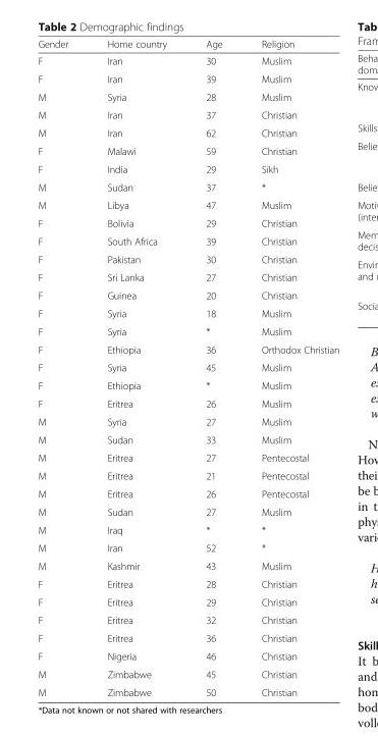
<table><thead><tr><td>Gender</td><td>Home country</td><td>Age</td><td>Religion</td></tr></thead><tbody><tr><td>F</td><td>Iran</td><td>30</td><td>Muslim</td></tr><tr><td>F</td><td>Iran</td><td>39</td><td>Muslim</td></tr><tr><td>M</td><td>Syria</td><td>28</td><td>Muslim</td></tr><tr><td>M</td><td>Iran</td><td>37</td><td>Christian</td></tr><tr><td>M</td><td>Iran</td><td>62</td><td>Christian</td></tr><tr><td>F</td><td>Malawi</td><td>59</td><td>Christian</td></tr><tr><td>F</td><td>India</td><td>29</td><td>Sikh</td></tr><tr><td>M</td><td>Sudan</td><td>37</td><td>*</td></tr><tr><td>M</td><td>Libya</td><td>47</td><td>Muslim</td></tr><tr><td>F</td><td>Bolivia</td><td>29</td><td>Christian</td></tr><tr><td>F</td><td>South Africa</td><td>39</td><td>Christian</td></tr><tr><td>F</td><td>Pakistan</td><td>30</td><td>Christian</td></tr><tr><td>F</td><td>Sri Lanka</td><td>27</td><td>Christian</td></tr><tr><td>F</td><td>Guinea</td><td>20</td><td>Christian</td></tr><tr><td>F</td><td>Syria</td><td>18</td><td>Muslim</td></tr><tr><td>F</td><td>Syria</td><td>*</td><td>Muslim</td></tr><tr><td>F</td><td>Ethiopia</td><td>36</td><td>Orthodox Christian</td></tr><tr><td>F</td><td>Syria</td><td>45</td><td>Muslim</td></tr><tr><td>F</td><td>Ethiopia</td><td>*</td><td>Muslim</td></tr><tr><td>F</td><td>Eritrea</td><td>26</td><td>Muslim</td></tr><tr><td>M</td><td>Syria</td><td>27</td><td>Muslim</td></tr><tr><td>M</td><td>Sudan</td><td>33</td><td>Muslim</td></tr><tr><td>M</td><td>Eritrea</td><td>27</td><td>Pentecostal</td></tr><tr><td>M</td><td>Eritrea</td><td>21</td><td>Pentecostal</td></tr><tr><td>M</td><td>Eritrea</td><td>26</td><td>Pentecostal</td></tr><tr><td>M</td><td>Sudan</td><td>27</td><td>Muslim</td></tr><tr><td>M</td><td>Iraq</td><td>*</td><td>*</td></tr><tr><td>M</td><td>Iran</td><td>52</td><td>*</td></tr><tr><td>M</td><td>Kashmir</td><td>43</td><td>Muslim</td></tr><tr><td>F</td><td>Eritrea</td><td>28</td><td>Christian</td></tr><tr><td>F</td><td>Eritrea</td><td>29</td><td>Christian</td></tr><tr><td>F</td><td>Eritrea</td><td>32</td><td>Christian</td></tr><tr><td>F</td><td>Eritrea</td><td>36</td><td>Christian</td></tr><tr><td>F</td><td>Nigeria</td><td>46</td><td>Christian</td></tr><tr><td>M</td><td>Zimbabwe</td><td>45</td><td>Christian</td></tr><tr><td>M</td><td>Zimbabwe</td><td>50</td><td>Christian</td></tr></tbody></table>